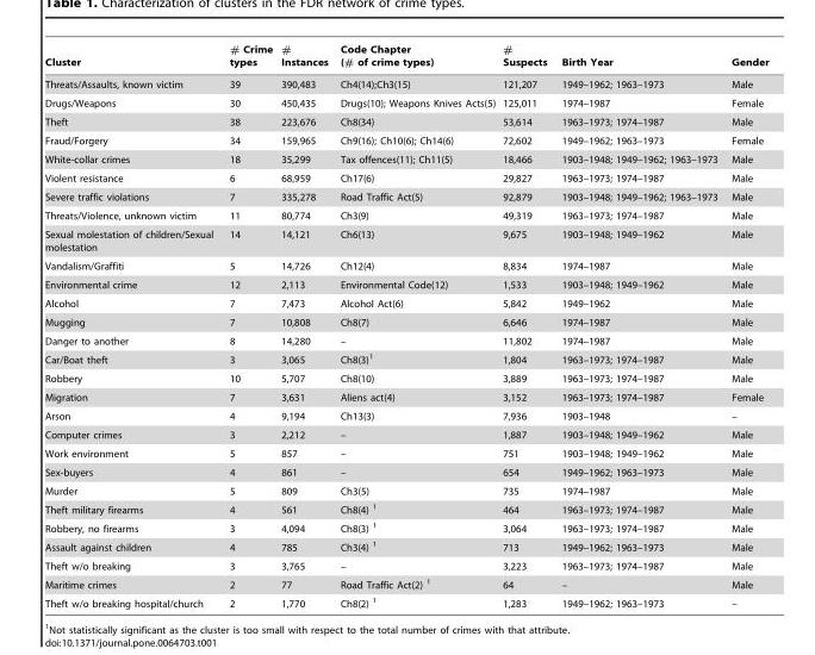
<table><thead><tr><td>Cluster</td><td># Crime types</td><td># Instances</td><td>Code Chapter (# of crime types)</td><td># Suspects</td><td>Birth Year</td><td>Gender</td></tr></thead><tbody><tr><td>Threats/Assaults, known victim</td><td>39</td><td>390,483</td><td>Ch4(14);Ch3(15)</td><td>121,207</td><td>1949–1962; 1963–1973</td><td>Male</td></tr><tr><td>Drugs/Weapons</td><td>30</td><td>450,435</td><td>Drugs(10); Weapons Knives Acts(5)</td><td>125,011</td><td>1974–1987</td><td>Female</td></tr><tr><td>Theft</td><td>38</td><td>223,676</td><td>Ch8(34)</td><td>53,614</td><td>1963–1973; 1974–1987</td><td>Male</td></tr><tr><td>Fraud/Forgery</td><td>34</td><td>159,965</td><td>Ch9(16); Ch10(6); Ch14(6)</td><td>72,602</td><td>1949–1962; 1963–1973</td><td>Female</td></tr><tr><td>White-collar crimes</td><td>18</td><td>35,299</td><td>Tax offences(11); Ch11(5)</td><td>18,466</td><td>1903–1948; 1949–1962; 1963–1973</td><td>Male</td></tr><tr><td>Violent resistance</td><td>6</td><td>68,959</td><td>Ch17(6)</td><td>29,827</td><td>1963–1973; 1974–1987</td><td>Male</td></tr><tr><td>Severe traffic violations</td><td>7</td><td>335,278</td><td>Road Traffic Act(5)</td><td>92,879</td><td>1903–1948; 1949–1962; 1963–1973</td><td>Male</td></tr><tr><td>Threats/Violence, unknown victim</td><td>11</td><td>80,774</td><td>Ch3(9)</td><td>49,319</td><td>1963–1973; 1974–1987</td><td>Male</td></tr><tr><td>Sexual molestation of children/Sexual molestation</td><td>14</td><td>14,121</td><td>Ch6(13)</td><td>9,675</td><td>1903–1948; 1949–1962</td><td>Male</td></tr><tr><td>Vandalism/Graffiti</td><td>5</td><td>14,726</td><td>Ch12(4)</td><td>8,834</td><td>1974–1987</td><td>Male</td></tr><tr><td>Environmental crime</td><td>12</td><td>2,113</td><td>Environmental Code(12)</td><td>1,533</td><td>1903–1948; 1949–1962</td><td>Male</td></tr><tr><td>Alcohol</td><td>7</td><td>7,473</td><td>Alcohol Act(6)</td><td>5,842</td><td>1949–1962</td><td>Male</td></tr><tr><td>Mugging</td><td>7</td><td>10,808</td><td>Ch8(7)</td><td>6,646</td><td>1974–1987</td><td>Male</td></tr><tr><td>Danger to another</td><td>8</td><td>14,280</td><td>–</td><td>11,802</td><td>1974–1987</td><td>Male</td></tr><tr><td>Car/Boat theft</td><td>3</td><td>3,065</td><td>Ch8(3)<sup>1</sup></td><td>1,804</td><td>1963–1973; 1974–1987</td><td>Male</td></tr><tr><td>Robbery</td><td>10</td><td>5,707</td><td>Ch8(10)</td><td>3,889</td><td>1963–1973; 1974–1987</td><td>Male</td></tr><tr><td>Migration</td><td>7</td><td>3,631</td><td>Aliens act(4)</td><td>3,152</td><td>1963–1973; 1974–1987</td><td>Female</td></tr><tr><td>Arson</td><td>4</td><td>9,194</td><td>Ch13(3)</td><td>7,936</td><td>1903–1948</td><td>–</td></tr><tr><td>Computer crimes</td><td>3</td><td>2,212</td><td>–</td><td>1,887</td><td>1903–1948; 1949–1962</td><td>Male</td></tr><tr><td>Work environment</td><td>5</td><td>857</td><td>–</td><td>751</td><td>1903–1948; 1949–1962</td><td>Male</td></tr><tr><td>Sex-buyers</td><td>4</td><td>861</td><td>–</td><td>654</td><td>1949–1962; 1963–1973</td><td>Male</td></tr><tr><td>Murder</td><td>5</td><td>809</td><td>Ch3(5)</td><td>735</td><td>1974–1987</td><td>Male</td></tr><tr><td>Theft military firearms</td><td>4</td><td>561</td><td>Ch8(4) 1</td><td>464</td><td>1963–1973; 1974–1987</td><td>Male</td></tr><tr><td>Robbery, no firearms</td><td>3</td><td>4,094</td><td>Ch8(3) 1</td><td>3,064</td><td>1963–1973; 1974–1987</td><td>Male</td></tr><tr><td>Assault against children</td><td>4</td><td>785</td><td>Ch3(4) 1</td><td>713</td><td>1949–1962; 1963–1973</td><td>Male</td></tr><tr><td>Theft w/o breaking</td><td>3</td><td>3,765</td><td>–</td><td>3,223</td><td>1963–1973; 1974–1987</td><td>Male</td></tr><tr><td>Maritime crimes</td><td>2</td><td>77</td><td>Road Traffic Act(2) 1</td><td>64</td><td>–</td><td>Male</td></tr><tr><td>Theft w/o breaking hospital/church</td><td>2</td><td>1,770</td><td>Ch8(2) 1</td><td>1,283</td><td>1949–1962; 1963–1973</td><td>–</td></tr></tbody></table>